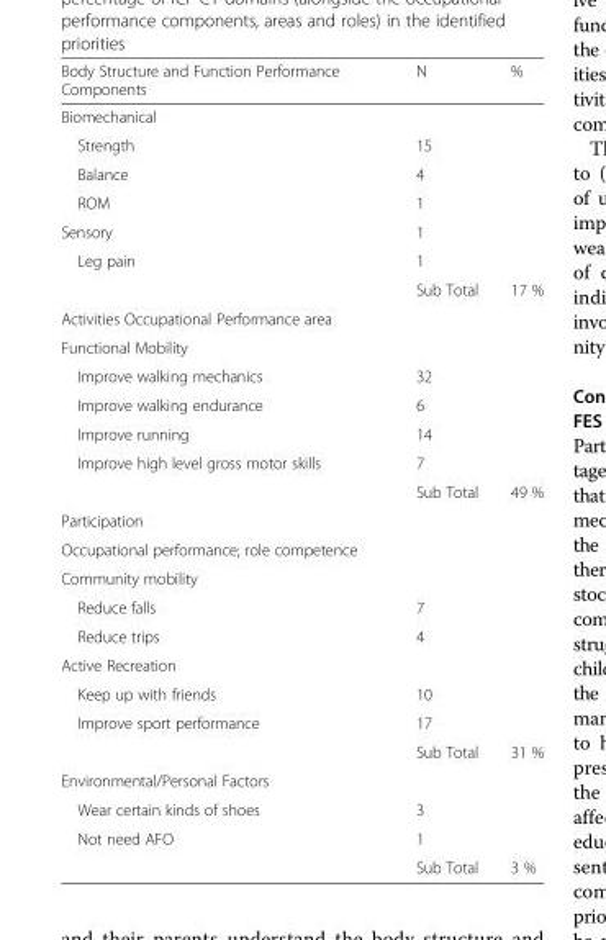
<table><thead><tr><td>Body Structure and Function Performance Components</td><td>N</td><td>%</td></tr></thead><tbody><tr><td colspan="3">Biomechanical</td></tr><tr><td>Strength</td><td>15</td><td></td></tr><tr><td>Balance</td><td>4</td><td></td></tr><tr><td>ROM</td><td>1</td><td></td></tr><tr><td>Sensory</td><td>1</td><td></td></tr><tr><td rowspan="2">Leg pain</td><td>1</td><td></td></tr><tr><td>Sub Total</td><td>17 %</td></tr><tr><td colspan="3">Activities Occupational Performance area</td></tr><tr><td colspan="3">Functional Mobility</td></tr><tr><td>Improve walking mechanics</td><td>32</td><td></td></tr><tr><td>Improve walking endurance</td><td>6</td><td></td></tr><tr><td>Improve running</td><td>14</td><td></td></tr><tr><td rowspan="2">Improve high level gross motor skills</td><td>7</td><td></td></tr><tr><td>Sub Total</td><td>49 %</td></tr><tr><td colspan="3">Participation</td></tr><tr><td colspan="3">Occupational performance; role competence</td></tr><tr><td colspan="3">Community mobility</td></tr><tr><td>Reduce falls</td><td>7</td><td></td></tr><tr><td>Reduce trips</td><td>4</td><td></td></tr><tr><td colspan="3">Active Recreation</td></tr><tr><td>Keep up with friends</td><td>10</td><td></td></tr><tr><td rowspan="2">Improve sport performance</td><td>17</td><td></td></tr><tr><td>Sub Total</td><td>31 %</td></tr><tr><td colspan="3">Environmental/Personal Factors</td></tr><tr><td>Wear certain kinds of shoes</td><td>3</td><td></td></tr><tr><td rowspan="2">Not need AFO</td><td>1</td><td></td></tr><tr><td>Sub Total</td><td>3 %</td></tr></tbody></table>